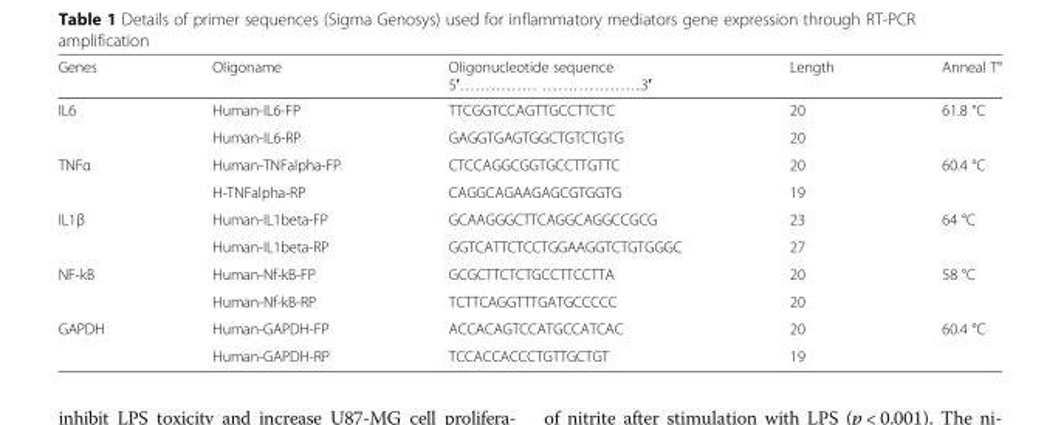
<table><thead><tr><td>Genes</td><td>Oligoname</td><td>Oligonucleotide sequence 5′…………… ………………..3′</td><td>Length</td><td>Anneal T°</td></tr></thead><tbody><tr><td rowspan="2">IL6</td><td>Human-IL6-FP</td><td>TTCGGTCCAGTTGCCTTCTC</td><td>20</td><td rowspan="2">61.8 °C</td></tr><tr><td>Human-IL6-RP</td><td>GAGGTGAGTGGCTGTCTGTG</td><td>20</td></tr><tr><td rowspan="2">TNFα</td><td>Human-TNFalpha-FP</td><td>CTCCAGGCGGTGCCTTGTTC</td><td>20</td><td rowspan="2">60.4 °C</td></tr><tr><td>H-TNFalpha-RP</td><td>CAGGCAGAAGAGCGTGGTG</td><td>19</td></tr><tr><td rowspan="2">IL1β</td><td>Human-IL1beta-FP</td><td>GCAAGGGCTTCAGGCAGGCCGCG</td><td>23</td><td rowspan="2">64 °C</td></tr><tr><td>Human-IL1beta-RP</td><td>GGTCATTCTCCTGGAAGGTCTGTGGGC</td><td>27</td></tr><tr><td rowspan="2">NF-kB</td><td>Human-Nf-kB-FP</td><td>GCGCTTCTCTGCCTTCCTTA</td><td>20</td><td rowspan="2">58 °C</td></tr><tr><td>Human-Nf-kB-RP</td><td>TCTTCAGGTTTGATGCCCCC</td><td>20</td></tr><tr><td rowspan="2">GAPDH</td><td>Human-GAPDH-FP</td><td>ACCACAGTCCATGCCATCAC</td><td>20</td><td rowspan="2">60.4 °C</td></tr><tr><td>Human-GAPDH-RP</td><td>TCCACCACCCTGTTGCTGT</td><td>19</td></tr></tbody></table>